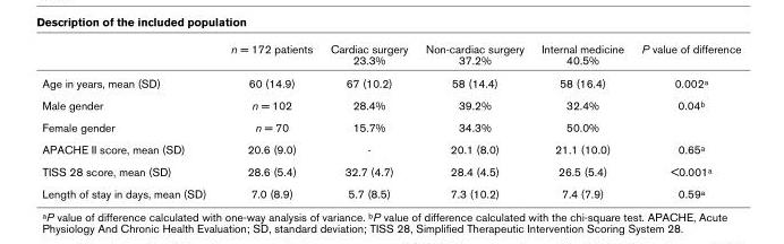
<table><thead><tr><td></td><td>n = 172 patients</td><td>Cardiac surgery 23.3%</td><td>Non-cardiac surgery 37.2%</td><td>Internal medicine 40.5%</td><td>P value of difference</td></tr></thead><tbody><tr><td>Age in years, mean (SD)</td><td>60 (14.9)</td><td>67 (10.2)</td><td>58 (14.4)</td><td>58 (16.4)</td><td>0.002<sup>a</sup></td></tr><tr><td>Male gender</td><td>n = 102</td><td>28.4%</td><td>39.2%</td><td>32.4%</td><td>0.04<sup>b</sup></td></tr><tr><td>Female gender</td><td>n = 70</td><td>15.7%</td><td>34.3%</td><td>50.0%</td><td></td></tr><tr><td>APACHE II score, mean (SD)</td><td>20.6 (9.0)</td><td>-</td><td>20.1 (8.0)</td><td>21.1 (10.0)</td><td>0.65<sup>a</sup></td></tr><tr><td>TISS 28 score, mean (SD)</td><td>28.6 (5.4)</td><td>32.7 (4.7)</td><td>28.4 (4.5)</td><td>26.5 (5.4)</td><td>&lt;0.001<sup>a</sup></td></tr><tr><td>Length of stay in days, mean (SD)</td><td>7.0 (8.9)</td><td>5.7 (8.5)</td><td>7.3 (10.2)</td><td>7.4 (7.9)</td><td>0.59<sup>a</sup></td></tr></tbody></table>